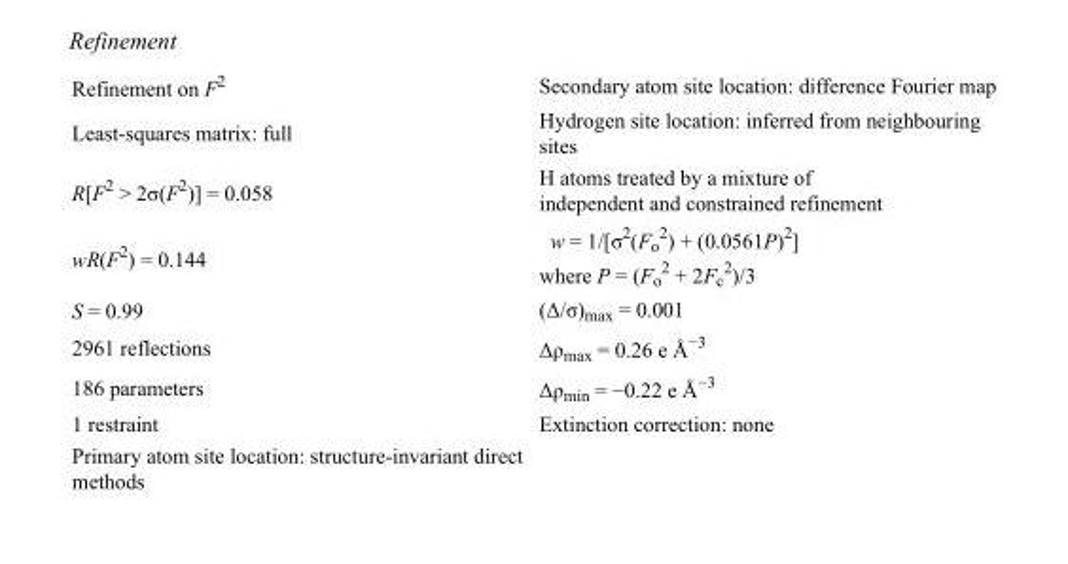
<table><tbody><tr><td>Refinement on F<sup>2</sup></td><td>Secondary atom site location: difference Fourier map</td></tr><tr><td>Least-squares matrix: full</td><td>Hydrogen site location: inferred from neighbouring sites</td></tr><tr><td>R[F<sup>2</sup> &gt; 2σ(F<sup>2</sup>)] = 0.058</td><td>H atoms treated by a mixture of independent and constrained refinement</td></tr><tr><td>wR(F<sup>2</sup>) = 0.144</td><td>w = 1/[σ<sup>2</sup>(F<sub>o</sub> <sup>2</sup>) + (0.0561P)<sup>2</sup>] where P = (F<sub>o</sub> <sup>2</sup> + 2F<sub>c</sub> <sup>2</sup>)/3</td></tr><tr><td>S = 0.99</td><td>(Δ/σ)<sub>max</sub> = 0.001</td></tr><tr><td>2961 reflections</td><td>Δρ<sub>max</sub> = 0.26 e Å<sup>−3</sup></td></tr><tr><td>186 parameters</td><td>Δρ<sub>min</sub> = −0.22 e Å<sup>−3</sup></td></tr><tr><td>1 restraint</td><td>Extinction correction: none</td></tr><tr><td>Primary atom site location: structure-invariant direct methods</td><td></td></tr></tbody></table>